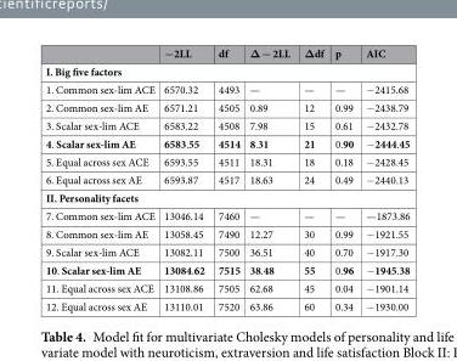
<table><thead><tr><td></td><td>−2LL</td><td>df</td><td>Δ − 2LL</td><td>Δdf</td><td>p</td><td>AIC</td></tr></thead><tbody><tr><td colspan="7">I. Big five factors</td></tr><tr><td>1. Common sex-lim ACE</td><td>6570.32</td><td>4493</td><td>—</td><td>—</td><td>—</td><td>−2415.68</td></tr><tr><td>2. Common sex-lim AE</td><td>6571.21</td><td>4505</td><td>0.89</td><td>12</td><td>0.99</td><td>−2438.79</td></tr><tr><td>3. Scalar sex-lim ACE</td><td>6583.22</td><td>4508</td><td>7.98</td><td>15</td><td>0.61</td><td>−2432.78</td></tr><tr><td>4. Scalar sex-lim AE</td><td>6583.55</td><td>4514</td><td>8.31</td><td>21</td><td>0.90</td><td>−2444.45</td></tr><tr><td>5. Equal across sex ACE</td><td>6593.55</td><td>4511</td><td>18.31</td><td>18</td><td>0.18</td><td>−2428.45</td></tr><tr><td>6. Equal across sex AE</td><td>6593.87</td><td>4517</td><td>18.63</td><td>24</td><td>0.49</td><td>−2440.13</td></tr><tr><td colspan="7">II. Personality facets</td></tr><tr><td>7. Common sex-lim ACE</td><td>13046.14</td><td>7460</td><td>—</td><td>—</td><td>—</td><td>—1873.86</td></tr><tr><td>8. Common sex-lim AE</td><td>13058.45</td><td>7490</td><td>12.27</td><td>30</td><td>0.99</td><td>−1921.55</td></tr><tr><td>9. Scalar sex-lim ACE</td><td>13082.11</td><td>7500</td><td>36.51</td><td>40</td><td>0.70</td><td>−1917.30</td></tr><tr><td>10. Scalar sex-lim AE</td><td>13084.62</td><td>7515</td><td>38.48</td><td>55</td><td>0.96</td><td>−1945.38</td></tr><tr><td>11. Equal across sex ACE</td><td>13108.86</td><td>7505</td><td>62.68</td><td>45</td><td>0.04</td><td>−1901.14</td></tr><tr><td>12. Equal across sex AE</td><td>13110.01</td><td>7520</td><td>63.86</td><td>60</td><td>0.34</td><td>−1930.00</td></tr></tbody></table>